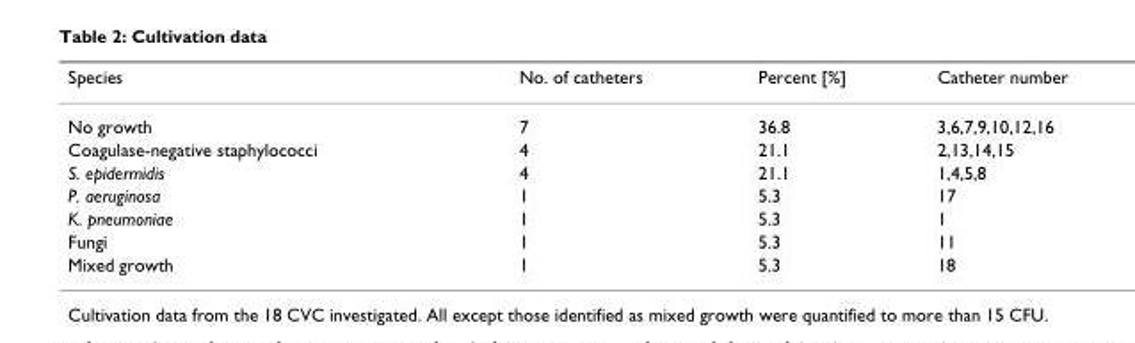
<table><thead><tr><td>Species</td><td>No. of catheters</td><td>Percent [%]</td><td>Catheter number</td></tr></thead><tbody><tr><td>No growth</td><td>7</td><td>36.8</td><td>3,6,7,9,10,12,16</td></tr><tr><td>Coagulase-negative staphylococci</td><td>4</td><td>21.1</td><td>2,13,14,15</td></tr><tr><td>S. epidermidis</td><td>4</td><td>21.1</td><td>1,4,5,8</td></tr><tr><td>P. aeruginosa</td><td>1</td><td>5.3</td><td>17</td></tr><tr><td>K. pneumoniae</td><td>1</td><td>5.3</td><td>1</td></tr><tr><td>Fungi</td><td>1</td><td>5.3</td><td>11</td></tr><tr><td>Mixed growth</td><td>1</td><td>5.3</td><td>18</td></tr></tbody></table>